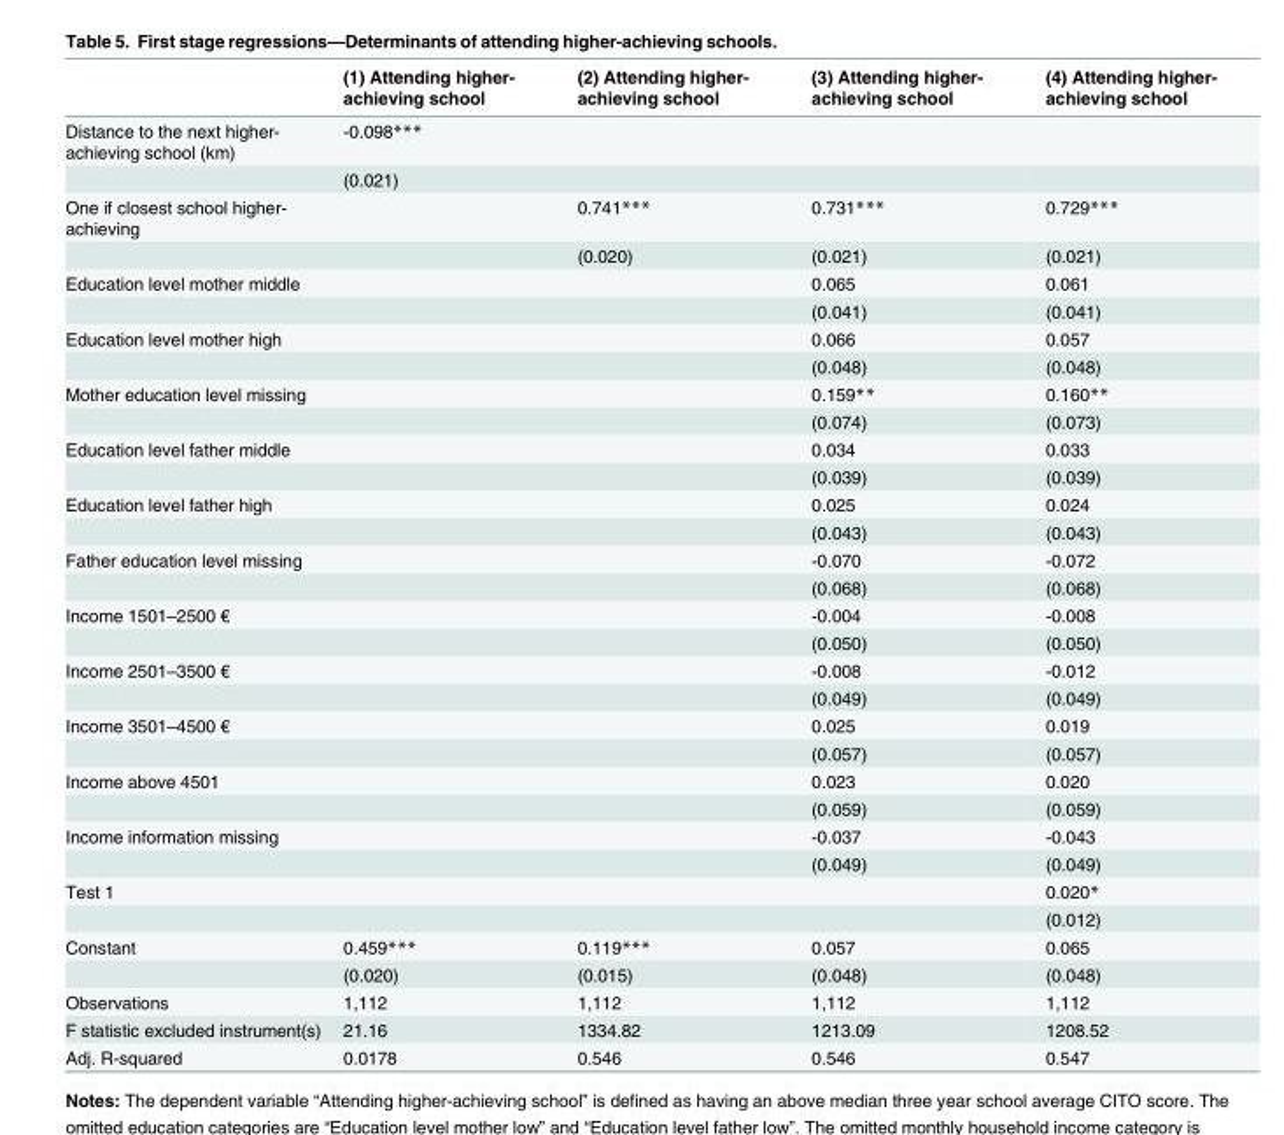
<table><thead><tr><td></td><td>(1) Attending higher- achieving school</td><td>(2) Attending higher- achieving school</td><td>(3) Attending higher- achieving school</td><td>(4) Attending higher- achieving school</td></tr></thead><tbody><tr><td rowspan="2">Distance to the next higher- achieving school (km)</td><td>-0.098***</td><td></td><td></td><td></td></tr><tr><td>(0.021)</td><td></td><td></td><td></td></tr><tr><td rowspan="2">One if closest school higher- achieving</td><td></td><td>0.741***</td><td>0.731***</td><td>0.729***</td></tr><tr><td></td><td>(0.020)</td><td>(0.021)</td><td>(0.021)</td></tr><tr><td rowspan="2">Education level mother middle</td><td></td><td></td><td>0.065</td><td>0.061</td></tr><tr><td></td><td></td><td>(0.041)</td><td>(0.041)</td></tr><tr><td rowspan="2">Education level mother high</td><td></td><td></td><td>0.066</td><td>0.057</td></tr><tr><td></td><td></td><td>(0.048)</td><td>(0.048)</td></tr><tr><td rowspan="2">Mother education level missing</td><td></td><td></td><td>0.159**</td><td>0.160**</td></tr><tr><td></td><td></td><td>(0.074)</td><td>(0.073)</td></tr><tr><td rowspan="2">Education level father middle</td><td></td><td></td><td>0.034</td><td>0.033</td></tr><tr><td></td><td></td><td>(0.039)</td><td>(0.039)</td></tr><tr><td rowspan="2">Education level father high</td><td></td><td></td><td>0.025</td><td>0.024</td></tr><tr><td></td><td></td><td>(0.043)</td><td>(0.043)</td></tr><tr><td rowspan="2">Father education level missing</td><td></td><td></td><td>-0.070</td><td>-0.072</td></tr><tr><td></td><td></td><td>(0.068)</td><td>(0.068)</td></tr><tr><td rowspan="2">Income 1501–2500 €</td><td></td><td></td><td>-0.004</td><td>-0.008</td></tr><tr><td></td><td></td><td>(0.050)</td><td>(0.050)</td></tr><tr><td rowspan="2">Income 2501–3500 €</td><td></td><td></td><td>-0.008</td><td>-0.012</td></tr><tr><td></td><td></td><td>(0.049)</td><td>(0.049)</td></tr><tr><td rowspan="2">Income 3501–4500 €</td><td></td><td></td><td>0.025</td><td>0.019</td></tr><tr><td></td><td></td><td>(0.057)</td><td>(0.057)</td></tr><tr><td rowspan="2">Income above 4501</td><td></td><td></td><td>0.023</td><td>0.020</td></tr><tr><td></td><td></td><td>(0.059)</td><td>(0.059)</td></tr><tr><td rowspan="2">Income information missing</td><td></td><td></td><td>-0.037</td><td>-0.043</td></tr><tr><td></td><td></td><td>(0.049)</td><td>(0.049)</td></tr><tr><td rowspan="2">Test 1</td><td></td><td></td><td></td><td>0.020*</td></tr><tr><td></td><td></td><td></td><td>(0.012)</td></tr><tr><td rowspan="2">Constant</td><td>0.459***</td><td>0.119***</td><td>0.057</td><td>0.065</td></tr><tr><td>(0.020)</td><td>(0.015)</td><td>(0.048)</td><td>(0.048)</td></tr><tr><td>Observations</td><td>1,112</td><td>1,112</td><td>1,112</td><td>1,112</td></tr><tr><td>F statistic excluded instrument(s)</td><td>21.16</td><td>1334.82</td><td>1213.09</td><td>1208.52</td></tr><tr><td>Adj. R-squared</td><td>0.0178</td><td>0.546</td><td>0.546</td><td>0.547</td></tr></tbody></table>